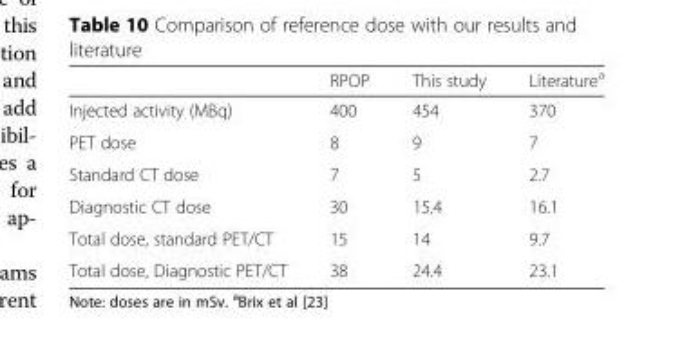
<table><thead><tr><td></td><td>RPOP</td><td>This study</td><td>Literature<sup>a</sup></td></tr></thead><tbody><tr><td>Injected activity (MBq)</td><td>400</td><td>454</td><td>370</td></tr><tr><td>PET dose</td><td>8</td><td>9</td><td>7</td></tr><tr><td>Standard CT dose</td><td>7</td><td>5</td><td>2.7</td></tr><tr><td>Diagnostic CT dose</td><td>30</td><td>15.4</td><td>16.1</td></tr><tr><td>Total dose, standard PET/CT</td><td>15</td><td>14</td><td>9.7</td></tr><tr><td>Total dose, Diagnostic PET/CT</td><td>38</td><td>24.4</td><td>23.1</td></tr></tbody></table>